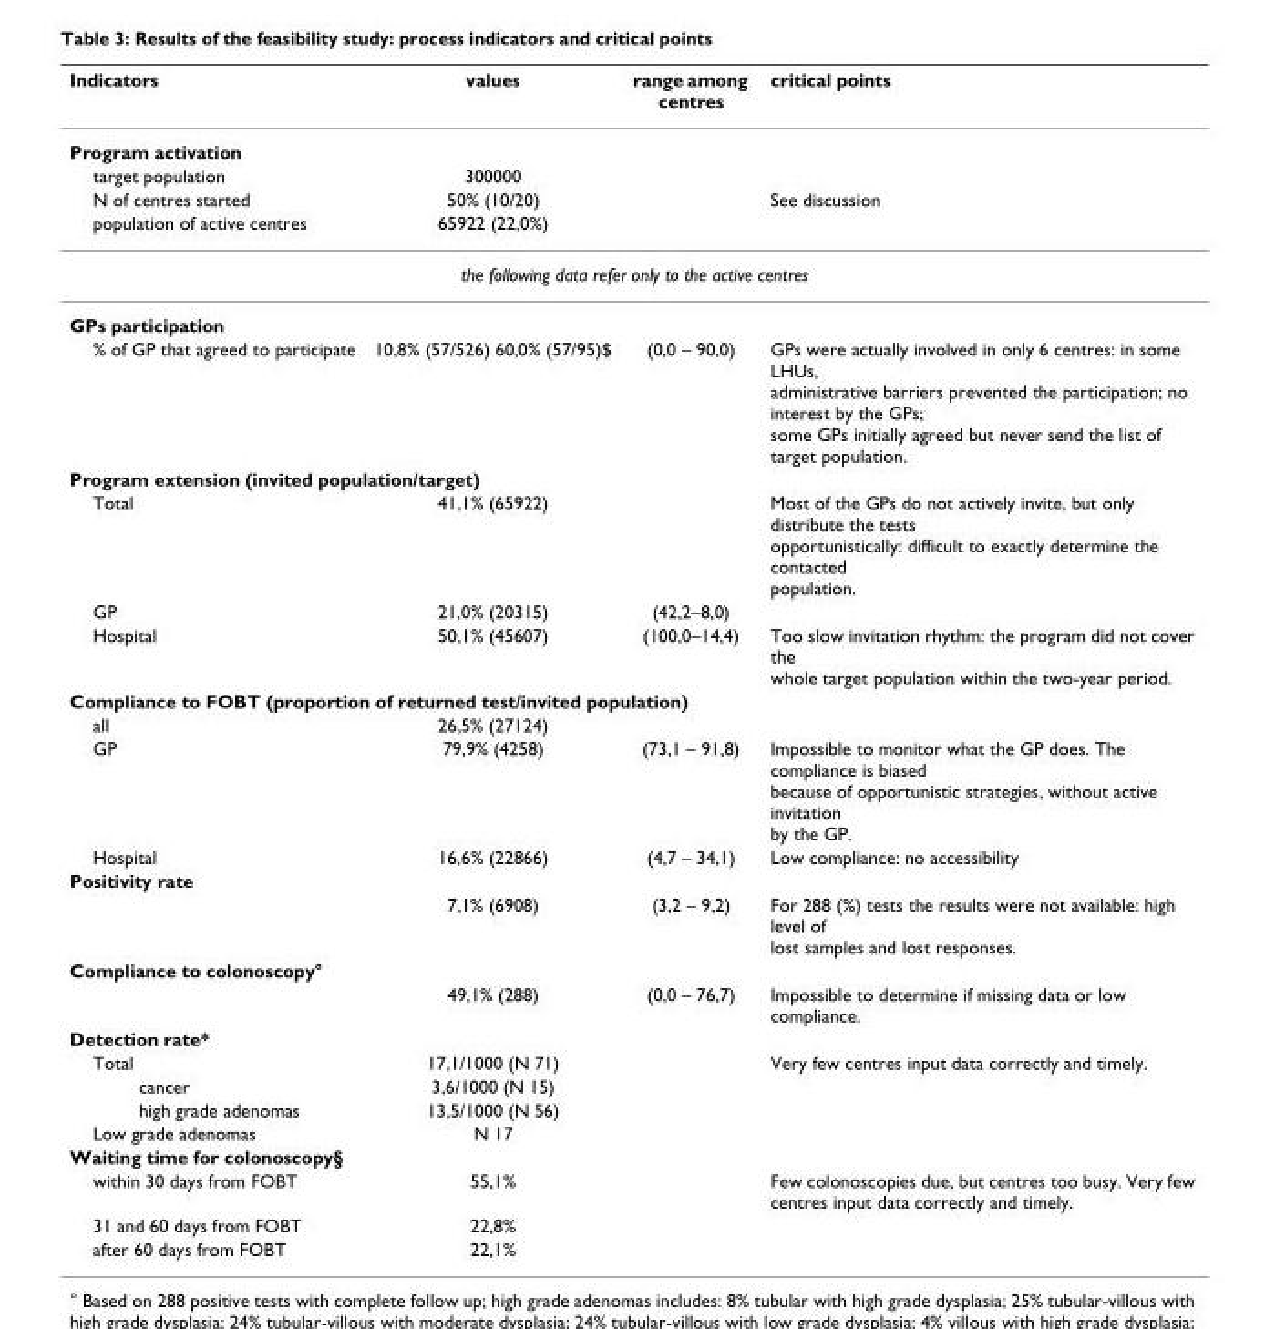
<table><thead><tr><td>Indicators</td><td>values</td><td>range among centres</td><td>critical points</td></tr></thead><tbody><tr><td colspan="4">Program activation</td></tr><tr><td>target population</td><td>300000</td><td></td><td></td></tr><tr><td>N of centres started</td><td>50% (10/20)</td><td></td><td>See discussion</td></tr><tr><td>population of active centres</td><td>65922 (22,0%)</td><td></td><td></td></tr><tr><td colspan="4">the following data refer only to the active centres</td></tr><tr><td colspan="4">GPs participation</td></tr><tr><td>% of GP that agreed to participate</td><td>10,8% (57/526) 60,0% (57/95)$</td><td>(0,0 – 90,0)</td><td>GPs were actually involved in only 6 centres: in some LHUs, administrative barriers prevented the participation; no interest by the GPs; some GPs initially agreed but never send the list of target population.</td></tr><tr><td colspan="4">Program extension (invited population/target)</td></tr><tr><td>Total</td><td>41,1% (65922)</td><td></td><td>Most of the GPs do not actively invite, but only distribute the tests opportunistically: difficult to exactly determine the contacted population.</td></tr><tr><td>GP</td><td>21,0% (20315)</td><td>(42,2–8,0)</td><td></td></tr><tr><td>Hospital</td><td>50,1% (45607)</td><td>(100,0–14,4)</td><td>Too slow invitation rhythm: the program did not cover the whole target population within the two-year period.</td></tr><tr><td colspan="4">Compliance to FOBT (proportion of returned test/invited population)</td></tr><tr><td>all</td><td>26,5% (27124)</td><td></td><td></td></tr><tr><td>GP</td><td>79,9% (4258)</td><td>(73,1 – 91,8)</td><td>Impossible to monitor what the GP does. The compliance is biased because of opportunistic strategies, without active invitation by the GP.</td></tr><tr><td>Hospital</td><td>16,6% (22866)</td><td>(4,7 – 34,1)</td><td>Low compliance: no accessibility</td></tr><tr><td colspan="4">Positivity rate</td></tr><tr><td></td><td>7,1% (6908)</td><td>(3,2 – 9,2)</td><td>For 288 (%) tests the results were not available: high level of lost samples and lost responses.</td></tr><tr><td colspan="4">Compliance to colonoscopy°</td></tr><tr><td></td><td>49,1% (288)</td><td>(0,0 – 76,7)</td><td>Impossible to determine if missing data or low compliance.</td></tr><tr><td colspan="4">Detection rate*</td></tr><tr><td>Total</td><td>17,1/1000 (N 71)</td><td></td><td>Very few centres input data correctly and timely.</td></tr><tr><td>cancer</td><td>3,6/1000 (N 15)</td><td></td><td></td></tr><tr><td>high grade adenomas</td><td>13,5/1000 (N 56)</td><td></td><td></td></tr><tr><td>Low grade adenomas</td><td>N 17</td><td></td><td></td></tr><tr><td colspan="4">Waiting time for colonoscopy§</td></tr><tr><td>within 30 days from FOBT</td><td>55,1%</td><td></td><td>Few colonoscopies due, but centres too busy. Very few centres input data correctly and timely.</td></tr><tr><td>31 and 60 days from FOBT</td><td>22,8%</td><td></td><td></td></tr><tr><td>after 60 days from FOBT</td><td>22,1%</td><td></td><td></td></tr></tbody></table>